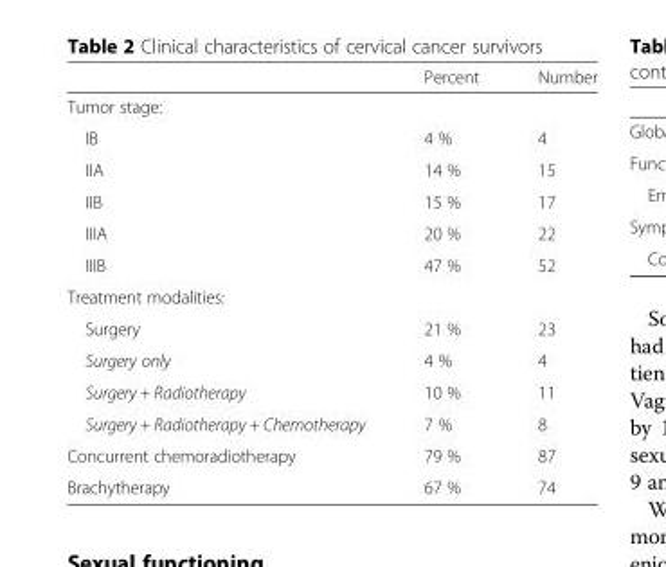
<table><thead><tr><td></td><td>Percent</td><td>Number</td></tr></thead><tbody><tr><td colspan="3">Tumor stage:</td></tr><tr><td>IB</td><td>4 %</td><td>4</td></tr><tr><td>IIA</td><td>14 %</td><td>15</td></tr><tr><td>IIB</td><td>15 %</td><td>17</td></tr><tr><td>IIIA</td><td>20 %</td><td>22</td></tr><tr><td>IIIB</td><td>47 %</td><td>52</td></tr><tr><td colspan="3">Treatment modalities:</td></tr><tr><td>Surgery</td><td>21 %</td><td>23</td></tr><tr><td>Surgery only</td><td>4 %</td><td>4</td></tr><tr><td>Surgery + Radiotherapy</td><td>10 %</td><td>11</td></tr><tr><td>Surgery + Radiotherapy + Chemotherapy</td><td>7 %</td><td>8</td></tr><tr><td>Concurrent chemoradiotherapy</td><td>79 %</td><td>87</td></tr><tr><td>Brachytherapy</td><td>67 %</td><td>74</td></tr></tbody></table>